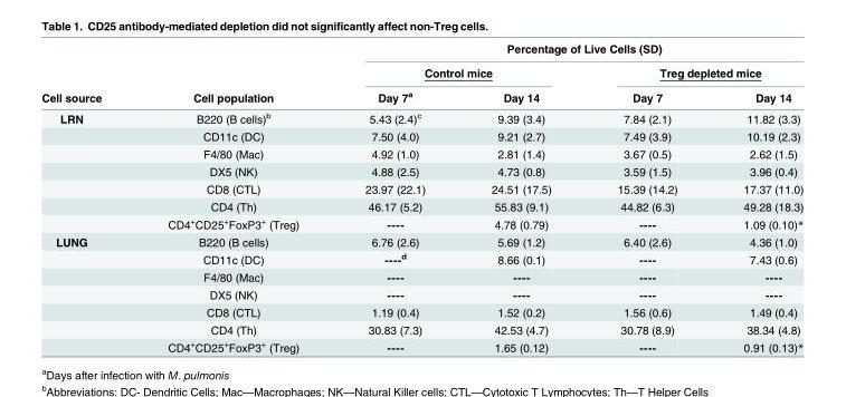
<table><thead><tr><td rowspan="3">Cell source</td><td rowspan="3">Cell population</td><td colspan="4">Percentage of Live Cells (SD)</td></tr><tr><td colspan="2">Control mice</td><td colspan="2">Treg depleted mice</td></tr><tr><td>Day 7<sup>a</sup></td><td>Day 14</td><td>Day 7</td><td>Day 14</td></tr></thead><tbody><tr><td rowspan="7">LRN</td><td>B220 (B cells)<sup>b</sup></td><td>5.43 (2.4)<sup>c</sup></td><td>9.39 (3.4)</td><td>7.84 (2.1)</td><td>11.82 (3.3)</td></tr><tr><td>CD11c (DC)</td><td>7.50 (4.0)</td><td>9.21 (2.7)</td><td>7.49 (3.9)</td><td>10.19 (2.3)</td></tr><tr><td>F4/80 (Mac)</td><td>4.92 (1.0)</td><td>2.81 (1.4)</td><td>3.67 (0.5)</td><td>2.62 (1.5)</td></tr><tr><td>DX5 (NK)</td><td>4.88 (2.5)</td><td>4.73 (0.8)</td><td>3.59 (1.5)</td><td>3.96 (0.4)</td></tr><tr><td>CD8 (CTL)</td><td>23.97 (22.1)</td><td>24.51 (17.5)</td><td>15.39 (14.2)</td><td>17.37 (11.0)</td></tr><tr><td>CD4 (Th)</td><td>46.17 (5.2)</td><td>55.83 (9.1)</td><td>44.82 (6.3)</td><td>49.28 (18.3)</td></tr><tr><td>CD4<sup>+</sup>CD25<sup>+</sup>FoxP3<sup>+</sup> (Treg)</td><td>----</td><td>4.78 (0.79)</td><td>----</td><td>1.09 (0.10)*</td></tr><tr><td rowspan="7">LUNG</td><td>B220 (B cells)</td><td>6.76 (2.6)</td><td>5.69 (1.2)</td><td>6.40 (2.6)</td><td>4.36 (1.0)</td></tr><tr><td>CD11c (DC)</td><td>----<sup>d</sup></td><td>8.66 (0.1)</td><td>----</td><td>7.43 (0.6)</td></tr><tr><td>F4/80 (Mac)</td><td>----</td><td>----</td><td>----</td><td>----</td></tr><tr><td>DX5 (NK)</td><td>----</td><td>----</td><td>----</td><td>----</td></tr><tr><td>CD8 (CTL)</td><td>1.19 (0.4)</td><td>1.52 (0.2)</td><td>1.56 (0.6)</td><td>1.49 (0.4)</td></tr><tr><td>CD4 (Th)</td><td>30.83 (7.3)</td><td>42.53 (4.7)</td><td>30.78 (8.9)</td><td>38.34 (4.8)</td></tr><tr><td>CD4<sup>+</sup>CD25<sup>+</sup>FoxP3<sup>+</sup> (Treg)</td><td>----</td><td>1.65 (0.12)</td><td>----</td><td>0.91 (0.13)*</td></tr></tbody></table>